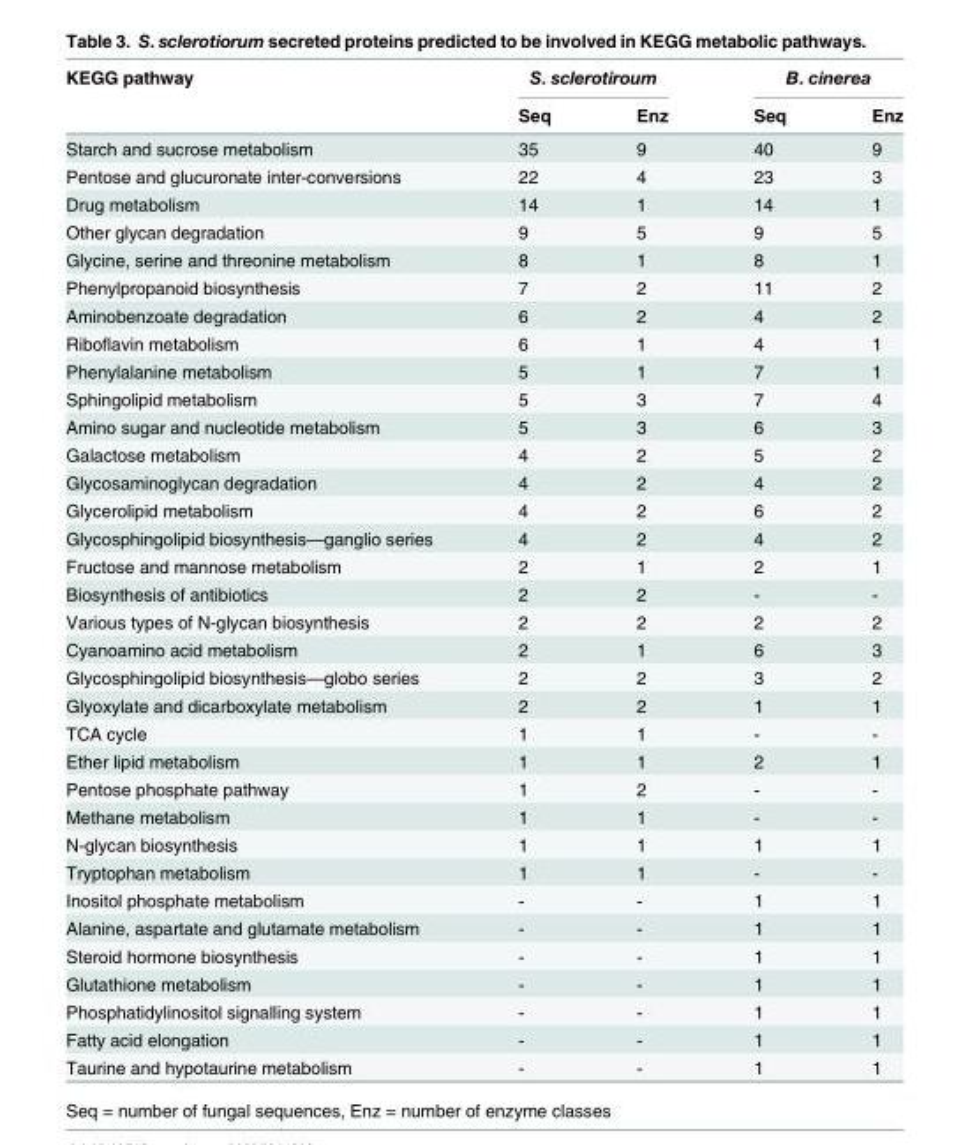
<table><thead><tr><td rowspan="2">KEGG pathway</td><td colspan="2">S. sclerotiroum</td><td colspan="2">B. cinerea</td></tr><tr><td>Seq</td><td>Enz</td><td>Seq</td><td>Enz</td></tr></thead><tbody><tr><td>Starch and sucrose metabolism</td><td>35</td><td>9</td><td>40</td><td>9</td></tr><tr><td>Pentose and glucuronate inter-conversions</td><td>22</td><td>4</td><td>23</td><td>3</td></tr><tr><td>Drug metabolism</td><td>14</td><td>1</td><td>14</td><td>1</td></tr><tr><td>Other glycan degradation</td><td>9</td><td>5</td><td>9</td><td>5</td></tr><tr><td>Glycine, serine and threonine metabolism</td><td>8</td><td>1</td><td>8</td><td>1</td></tr><tr><td>Phenylpropanoid biosynthesis</td><td>7</td><td>2</td><td>11</td><td>2</td></tr><tr><td>Aminobenzoate degradation</td><td>6</td><td>2</td><td>4</td><td>2</td></tr><tr><td>Riboflavin metabolism</td><td>6</td><td>1</td><td>4</td><td>1</td></tr><tr><td>Phenylalanine metabolism</td><td>5</td><td>1</td><td>7</td><td>1</td></tr><tr><td>Sphingolipid metabolism</td><td>5</td><td>3</td><td>7</td><td>4</td></tr><tr><td>Amino sugar and nucleotide metabolism</td><td>5</td><td>3</td><td>6</td><td>3</td></tr><tr><td>Galactose metabolism</td><td>4</td><td>2</td><td>5</td><td>2</td></tr><tr><td>Glycosaminoglycan degradation</td><td>4</td><td>2</td><td>4</td><td>2</td></tr><tr><td>Glycerolipid metabolism</td><td>4</td><td>2</td><td>6</td><td>2</td></tr><tr><td>Glycosphingolipid biosynthesis—ganglio series</td><td>4</td><td>2</td><td>4</td><td>2</td></tr><tr><td>Fructose and mannose metabolism</td><td>2</td><td>1</td><td>2</td><td>1</td></tr><tr><td>Biosynthesis of antibiotics</td><td>2</td><td>2</td><td>-</td><td>-</td></tr><tr><td>Various types of N-glycan biosynthesis</td><td>2</td><td>2</td><td>2</td><td>2</td></tr><tr><td>Cyanoamino acid metabolism</td><td>2</td><td>1</td><td>6</td><td>3</td></tr><tr><td>Glycosphingolipid biosynthesis—globo series</td><td>2</td><td>2</td><td>3</td><td>2</td></tr><tr><td>Glyoxylate and dicarboxylate metabolism</td><td>2</td><td>2</td><td>1</td><td>1</td></tr><tr><td>TCA cycle</td><td>1</td><td>1</td><td>-</td><td>-</td></tr><tr><td>Ether lipid metabolism</td><td>1</td><td>1</td><td>2</td><td>1</td></tr><tr><td>Pentose phosphate pathway</td><td>1</td><td>2</td><td>-</td><td>-</td></tr><tr><td>Methane metabolism</td><td>1</td><td>1</td><td>-</td><td>-</td></tr><tr><td>N-glycan biosynthesis</td><td>1</td><td>1</td><td>1</td><td>1</td></tr><tr><td>Tryptophan metabolism</td><td>1</td><td>1</td><td>-</td><td>-</td></tr><tr><td>Inositol phosphate metabolism</td><td>-</td><td>-</td><td>1</td><td>1</td></tr><tr><td>Alanine, aspartate and glutamate metabolism</td><td>-</td><td>-</td><td>1</td><td>1</td></tr><tr><td>Steroid hormone biosynthesis</td><td>-</td><td>-</td><td>1</td><td>1</td></tr><tr><td>Glutathione metabolism</td><td>-</td><td>-</td><td>1</td><td>1</td></tr><tr><td>Phosphatidylinositol signalling system</td><td>-</td><td>-</td><td>1</td><td>1</td></tr><tr><td>Fatty acid elongation</td><td>-</td><td>-</td><td>1</td><td>1</td></tr><tr><td>Taurine and hypotaurine metabolism</td><td>-</td><td>-</td><td>1</td><td>1</td></tr></tbody></table>